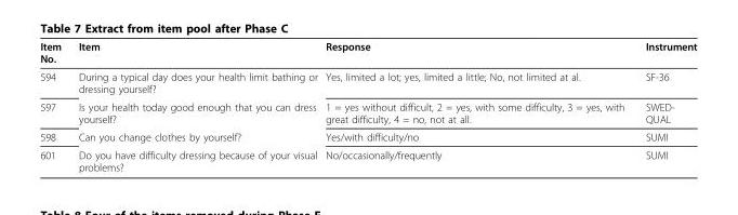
<table><thead><tr><td>Item No.</td><td>Item</td><td>Response</td><td>Instrument</td></tr></thead><tbody><tr><td>594</td><td>During a typical day does your health limit bathing or dressing yourself?</td><td>Yes, limited a lot; yes, limited a little; No, not limited at al.</td><td>SF-36</td></tr><tr><td>597</td><td>Is your health today good enough that you can dress yourself?</td><td>1 = yes without difficult, 2 = yes, with some difficulty, 3 = yes, with great difficulty, 4 = no, not at all.</td><td>SWED- QUAL</td></tr><tr><td>598</td><td>Can you change clothes by yourself?</td><td>Yes/with difficulty/no</td><td>SUMI</td></tr><tr><td>601</td><td>Do you have difficulty dressing because of your visual problems?</td><td>No/occasionally/frequently</td><td>SUMI</td></tr></tbody></table>